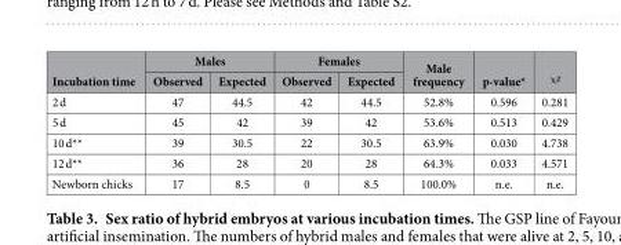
<table><thead><tr><td rowspan="2">Incubation time</td><td colspan="2">Males</td><td colspan="2">Females</td><td rowspan="2">Male frequency</td><td rowspan="2">p-value*</td><td rowspan="2">χ<sup>2</sup></td></tr><tr><td>Observed</td><td>Expected</td><td>Observed</td><td>Expected</td></tr></thead><tbody><tr><td>2 d</td><td>47</td><td>44.5</td><td>42</td><td>44.5</td><td>52.8%</td><td>0.596</td><td>0.281</td></tr><tr><td>5 d</td><td>45</td><td>42</td><td>39</td><td>42</td><td>53.6%</td><td>0.513</td><td>0.429</td></tr><tr><td>10 d**</td><td>39</td><td>30.5</td><td>22</td><td>30.5</td><td>63.9%</td><td>0.030</td><td>4.738</td></tr><tr><td>12 d**</td><td>36</td><td>28</td><td>20</td><td>28</td><td>64.3%</td><td>0.033</td><td>4.571</td></tr><tr><td>Newborn chicks</td><td>17</td><td>8.5</td><td>0</td><td>8.5</td><td>100.0%</td><td>n.e.</td><td>n.e.</td></tr></tbody></table>